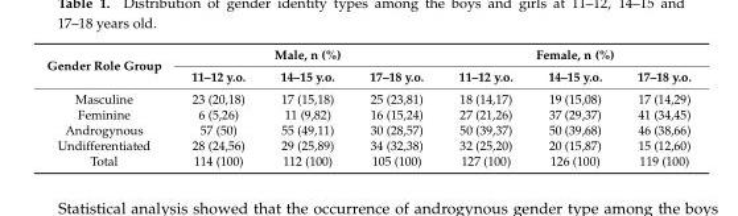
<table><thead><tr><td rowspan="2">Gender Role Group</td><td colspan="3">Male, n (%)</td><td colspan="3">Female, n (%)</td></tr><tr><td>11–12 y.o.</td><td>14–15 y.o.</td><td>17–18 y.o.</td><td>11–12 y.o.</td><td>14–15 y.o.</td><td>17–18 y.o.</td></tr></thead><tbody><tr><td>Masculine</td><td>23 (20,18)</td><td>17 (15,18)</td><td>25 (23,81)</td><td>18 (14,17)</td><td>19 (15,08)</td><td>17 (14,29)</td></tr><tr><td>Feminine</td><td>6 (5,26)</td><td>11 (9,82)</td><td>16 (15,24)</td><td>27 (21,26)</td><td>37 (29,37)</td><td>41 (34,45)</td></tr><tr><td>Androgynous</td><td>57 (50)</td><td>55 (49,11)</td><td>30 (28,57)</td><td>50 (39,37)</td><td>50 (39,68)</td><td>46 (38,66)</td></tr><tr><td>Undifferentiated</td><td>28 (24,56)</td><td>29 (25,89)</td><td>34 (32,38)</td><td>32 (25,20)</td><td>20 (15,87)</td><td>15 (12,60)</td></tr><tr><td>Total</td><td>114 (100)</td><td>112 (100)</td><td>105 (100)</td><td>127 (100)</td><td>126 (100)</td><td>119 (100)</td></tr></tbody></table>